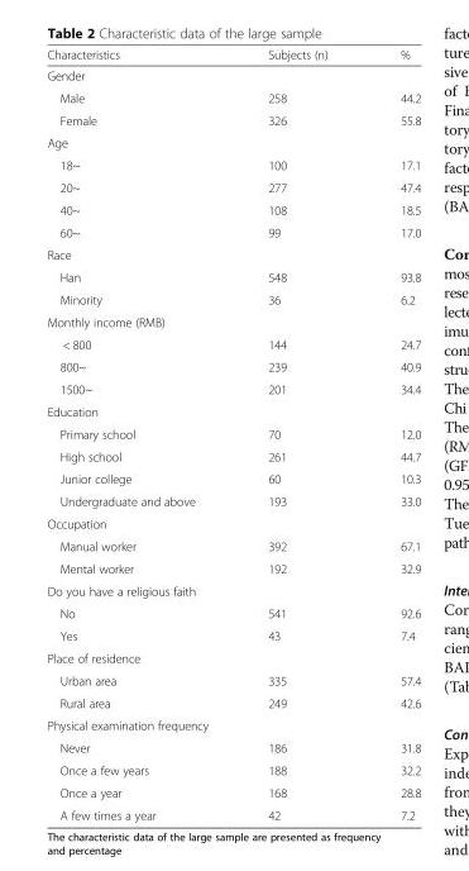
<table><thead><tr><td>Characteristics</td><td>Subjects (n)</td><td>%</td></tr></thead><tbody><tr><td colspan="3">Gender</td></tr><tr><td>Male</td><td>258</td><td>44.2</td></tr><tr><td>Female</td><td>326</td><td>55.8</td></tr><tr><td colspan="3">Age</td></tr><tr><td>18~</td><td>100</td><td>17.1</td></tr><tr><td>20~</td><td>277</td><td>47.4</td></tr><tr><td>40~</td><td>108</td><td>18.5</td></tr><tr><td>60~</td><td>99</td><td>17.0</td></tr><tr><td colspan="3">Race</td></tr><tr><td>Han</td><td>548</td><td>93.8</td></tr><tr><td>Minority</td><td>36</td><td>6.2</td></tr><tr><td colspan="3">Monthly income (RMB)</td></tr><tr><td>&lt; 800</td><td>144</td><td>24.7</td></tr><tr><td>800~</td><td>239</td><td>40.9</td></tr><tr><td>1500~</td><td>201</td><td>34.4</td></tr><tr><td colspan="3">Education</td></tr><tr><td>Primary school</td><td>70</td><td>12.0</td></tr><tr><td>High school</td><td>261</td><td>44.7</td></tr><tr><td>Junior college</td><td>60</td><td>10.3</td></tr><tr><td>Undergraduate and above</td><td>193</td><td>33.0</td></tr><tr><td colspan="3">Occupation</td></tr><tr><td>Manual worker</td><td>392</td><td>67.1</td></tr><tr><td>Mental worker</td><td>192</td><td>32.9</td></tr><tr><td colspan="3">Do you have a religious faith</td></tr><tr><td>No</td><td>541</td><td>92.6</td></tr><tr><td>Yes</td><td>43</td><td>7.4</td></tr><tr><td colspan="3">Place of residence</td></tr><tr><td>Urban area</td><td>335</td><td>57.4</td></tr><tr><td>Rural area</td><td>249</td><td>42.6</td></tr><tr><td colspan="3">Physical examination frequency</td></tr><tr><td>Never</td><td>186</td><td>31.8</td></tr><tr><td>Once a few years</td><td>188</td><td>32.2</td></tr><tr><td>Once a year</td><td>168</td><td>28.8</td></tr><tr><td>A few times a year</td><td>42</td><td>7.2</td></tr></tbody></table>